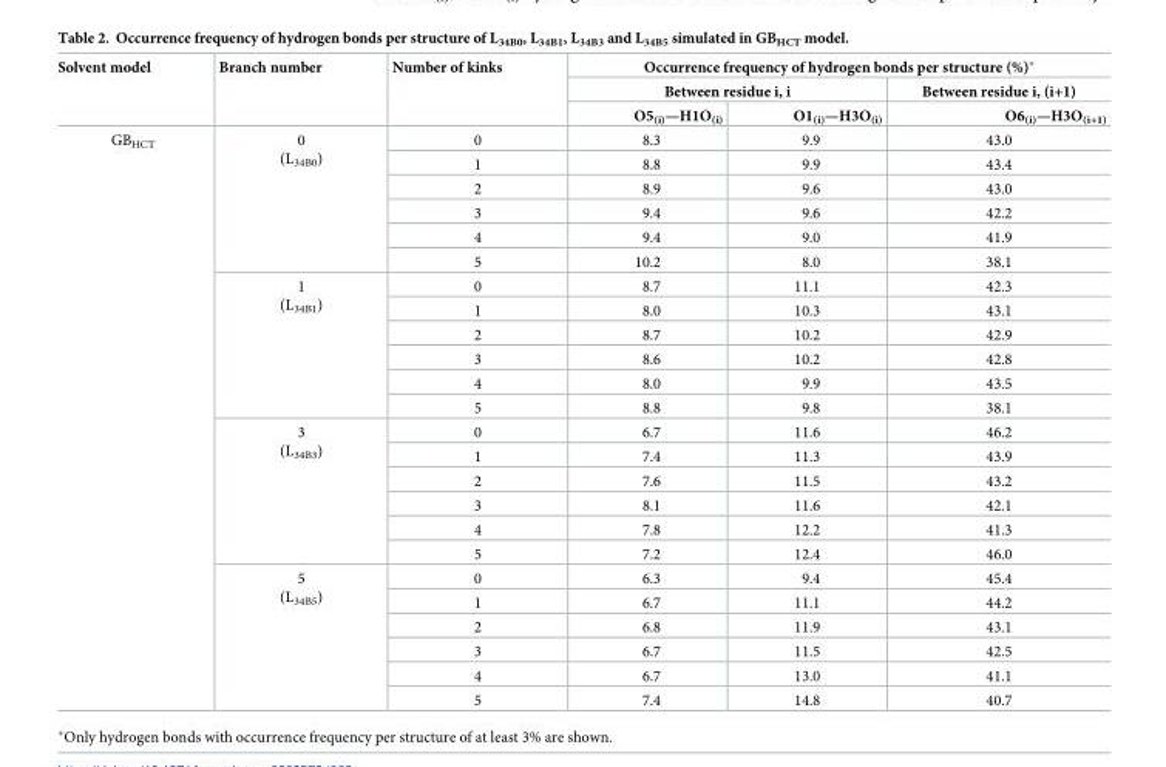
<table><thead><tr><td rowspan="3">Solvent model</td><td rowspan="3">Branch number</td><td rowspan="3">Number of kinks</td><td colspan="3">Occurrence frequency of hydrogen bonds per structure (%)*</td></tr><tr><td colspan="2">Between residue i, i</td><td rowspan="2">Between residue i, (i+1) O6<sub>(i)</sub>—H3O<sub>(i+1)</sub></td></tr><tr><td>O5<sub>(i)</sub>—H1O<sub>(i)</sub></td><td>O1<sub>(i)</sub>—H3O<sub>(i)</sub></td></tr></thead><tbody><tr><td rowspan="24">GB<sub>HCT</sub></td><td rowspan="6">0 (L<sub>34B0</sub>)</td><td>0</td><td>8.3</td><td>9.9</td><td>43.0</td></tr><tr><td>1</td><td>8.8</td><td>9.9</td><td>43.4</td></tr><tr><td>2</td><td>8.9</td><td>9.6</td><td>43.0</td></tr><tr><td>3</td><td>9.4</td><td>9.6</td><td>42.2</td></tr><tr><td>4</td><td>9.4</td><td>9.0</td><td>41.9</td></tr><tr><td>5</td><td>10.2</td><td>8.0</td><td>38.1</td></tr><tr><td rowspan="6">1 (L<sub>34B1</sub>)</td><td>0</td><td>8.7</td><td>11.1</td><td>42.3</td></tr><tr><td>1</td><td>8.0</td><td>10.3</td><td>43.1</td></tr><tr><td>2</td><td>8.7</td><td>10.2</td><td>42.9</td></tr><tr><td>3</td><td>8.6</td><td>10.2</td><td>42.8</td></tr><tr><td>4</td><td>8.0</td><td>9.9</td><td>43.5</td></tr><tr><td>5</td><td>8.8</td><td>9.8</td><td>38.1</td></tr><tr><td rowspan="6">3 (L<sub>34B3</sub>)</td><td>0</td><td>6.7</td><td>11.6</td><td>46.2</td></tr><tr><td>1</td><td>7.4</td><td>11.3</td><td>43.9</td></tr><tr><td>2</td><td>7.6</td><td>11.5</td><td>43.2</td></tr><tr><td>3</td><td>8.1</td><td>11.6</td><td>42.1</td></tr><tr><td>4</td><td>7.8</td><td>12.2</td><td>41.3</td></tr><tr><td>5</td><td>7.2</td><td>12.4</td><td>46.0</td></tr><tr><td rowspan="6">5 (L<sub>34B5</sub>)</td><td>0</td><td>6.3</td><td>9.4</td><td>45.4</td></tr><tr><td>1</td><td>6.7</td><td>11.1</td><td>44.2</td></tr><tr><td>2</td><td>6.8</td><td>11.9</td><td>43.1</td></tr><tr><td>3</td><td>6.7</td><td>11.5</td><td>42.5</td></tr><tr><td>4</td><td>6.7</td><td>13.0</td><td>41.1</td></tr><tr><td>5</td><td>7.4</td><td>14.8</td><td>40.7</td></tr></tbody></table>